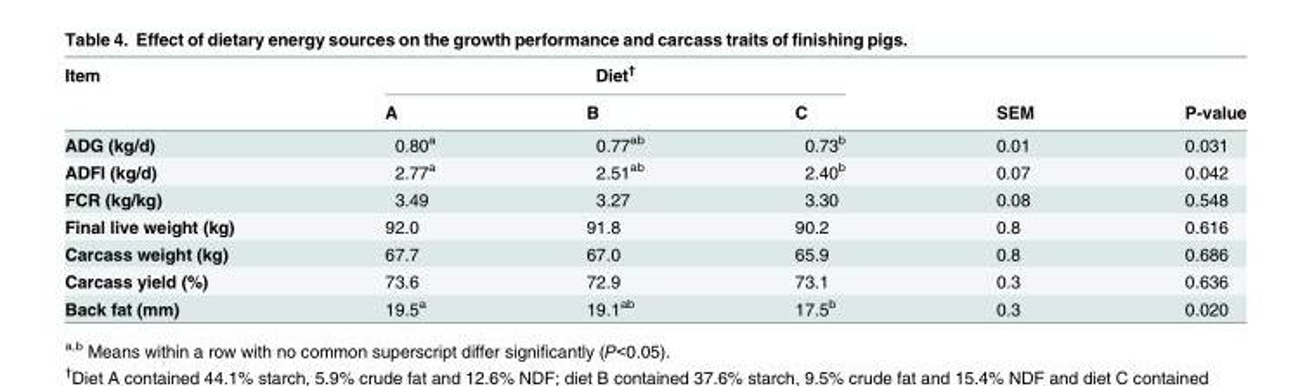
<table><thead><tr><td rowspan="2">Item</td><td colspan="3">Diet<sup>†</sup></td><td rowspan="2">SEM</td><td rowspan="2">P-value</td></tr><tr><td>A</td><td>B</td><td>C</td></tr></thead><tbody><tr><td>ADG (kg/d)</td><td>0.80<sup>a</sup></td><td>0.77<sup>ab</sup></td><td>0.73<sup>b</sup></td><td>0.01</td><td>0.031</td></tr><tr><td>ADFI (kg/d)</td><td>2.77<sup>a</sup></td><td>2.51<sup>ab</sup></td><td>2.40<sup>b</sup></td><td>0.07</td><td>0.042</td></tr><tr><td>FCR (kg/kg)</td><td>3.49</td><td>3.27</td><td>3.30</td><td>0.08</td><td>0.548</td></tr><tr><td>Final live weight (kg)</td><td>92.0</td><td>91.8</td><td>90.2</td><td>0.8</td><td>0.616</td></tr><tr><td>Carcass weight (kg)</td><td>67.7</td><td>67.0</td><td>65.9</td><td>0.8</td><td>0.686</td></tr><tr><td>Carcass yield (%)</td><td>73.6</td><td>72.9</td><td>73.1</td><td>0.3</td><td>0.636</td></tr><tr><td>Back fat (mm)</td><td>19.5<sup>a</sup></td><td>19.1<sup>ab</sup></td><td>17.5<sup>b</sup></td><td>0.3</td><td>0.020</td></tr></tbody></table>